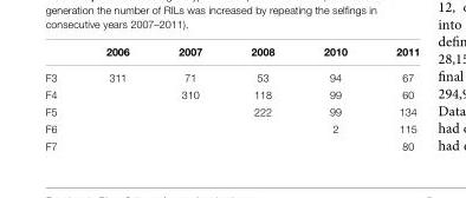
<table><thead><tr><td></td><td>2006</td><td>2007</td><td>2008</td><td>2010</td><td>2011</td></tr></thead><tbody><tr><td>F3</td><td>311</td><td>71</td><td>53</td><td>94</td><td>67</td></tr><tr><td>F4</td><td></td><td>310</td><td>118</td><td>99</td><td>60</td></tr><tr><td>F5</td><td></td><td></td><td>222</td><td>99</td><td>134</td></tr><tr><td>F6</td><td></td><td></td><td></td><td>2</td><td>115</td></tr><tr><td>F7</td><td></td><td></td><td></td><td></td><td>80</td></tr></tbody></table>